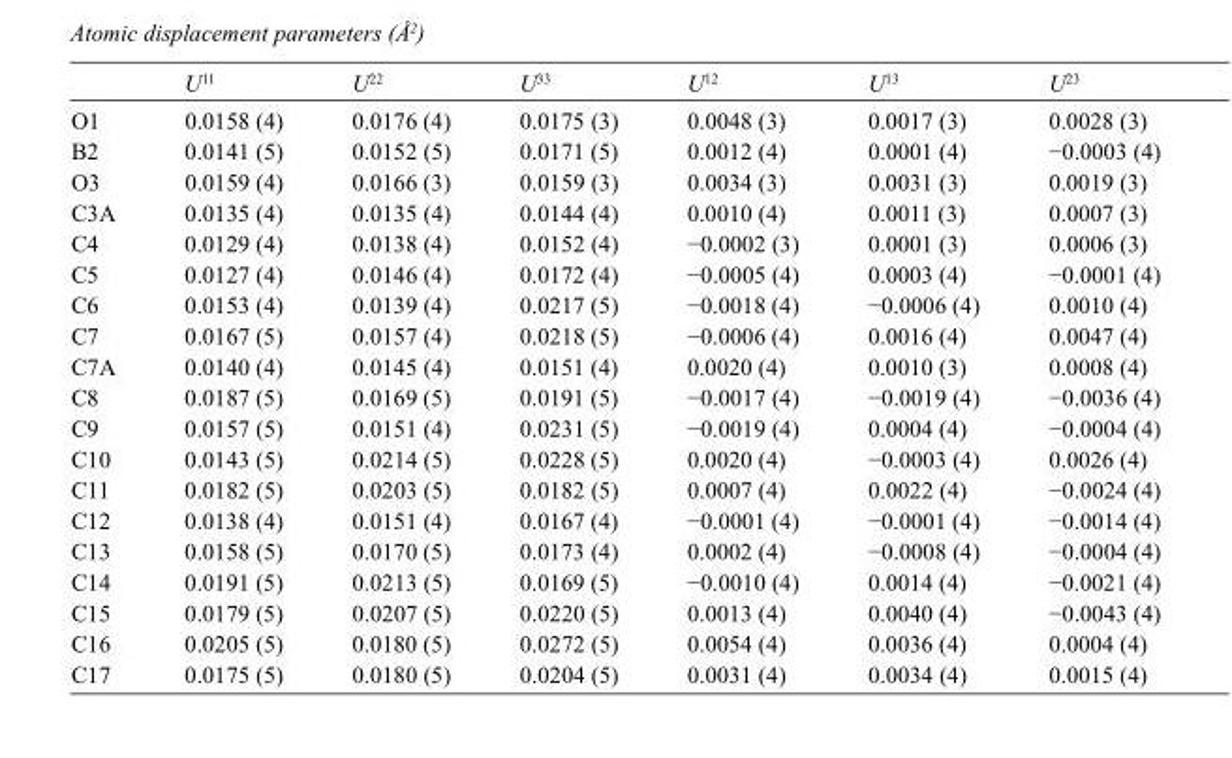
<table><thead><tr><td></td><td>U<sup>11</sup></td><td>U<sup>22</sup></td><td>U<sup>33</sup></td><td>U<sup>12</sup></td><td>U<sup>13</sup></td><td>U<sup>23</sup></td></tr></thead><tbody><tr><td>O1</td><td>0.0158 (4)</td><td>0.0176 (4)</td><td>0.0175 (3)</td><td>0.0048 (3)</td><td>0.0017 (3)</td><td>0.0028 (3)</td></tr><tr><td>B2</td><td>0.0141 (5)</td><td>0.0152 (5)</td><td>0.0171 (5)</td><td>0.0012 (4)</td><td>0.0001 (4)</td><td>−0.0003 (4)</td></tr><tr><td>O3</td><td>0.0159 (4)</td><td>0.0166 (3)</td><td>0.0159 (3)</td><td>0.0034 (3)</td><td>0.0031 (3)</td><td>0.0019 (3)</td></tr><tr><td>C3A</td><td>0.0135 (4)</td><td>0.0135 (4)</td><td>0.0144 (4)</td><td>0.0010 (4)</td><td>0.0011 (3)</td><td>0.0007 (3)</td></tr><tr><td>C4</td><td>0.0129 (4)</td><td>0.0138 (4)</td><td>0.0152 (4)</td><td>−0.0002 (3)</td><td>0.0001 (3)</td><td>0.0006 (3)</td></tr><tr><td>C5</td><td>0.0127 (4)</td><td>0.0146 (4)</td><td>0.0172 (4)</td><td>−0.0005 (4)</td><td>0.0003 (4)</td><td>−0.0001 (4)</td></tr><tr><td>C6</td><td>0.0153 (4)</td><td>0.0139 (4)</td><td>0.0217 (5)</td><td>−0.0018 (4)</td><td>−0.0006 (4)</td><td>0.0010 (4)</td></tr><tr><td>C7</td><td>0.0167 (5)</td><td>0.0157 (4)</td><td>0.0218 (5)</td><td>−0.0006 (4)</td><td>0.0016 (4)</td><td>0.0047 (4)</td></tr><tr><td>C7A</td><td>0.0140 (4)</td><td>0.0145 (4)</td><td>0.0151 (4)</td><td>0.0020 (4)</td><td>0.0010 (3)</td><td>0.0008 (4)</td></tr><tr><td>C8</td><td>0.0187 (5)</td><td>0.0169 (5)</td><td>0.0191 (5)</td><td>−0.0017 (4)</td><td>−0.0019 (4)</td><td>−0.0036 (4)</td></tr><tr><td>C9</td><td>0.0157 (5)</td><td>0.0151 (4)</td><td>0.0231 (5)</td><td>−0.0019 (4)</td><td>0.0004 (4)</td><td>−0.0004 (4)</td></tr><tr><td>C10</td><td>0.0143 (5)</td><td>0.0214 (5)</td><td>0.0228 (5)</td><td>0.0020 (4)</td><td>−0.0003 (4)</td><td>0.0026 (4)</td></tr><tr><td>C11</td><td>0.0182 (5)</td><td>0.0203 (5)</td><td>0.0182 (5)</td><td>0.0007 (4)</td><td>0.0022 (4)</td><td>−0.0024 (4)</td></tr><tr><td>C12</td><td>0.0138 (4)</td><td>0.0151 (4)</td><td>0.0167 (4)</td><td>−0.0001 (4)</td><td>−0.0001 (4)</td><td>−0.0014 (4)</td></tr><tr><td>C13</td><td>0.0158 (5)</td><td>0.0170 (5)</td><td>0.0173 (4)</td><td>0.0002 (4)</td><td>−0.0008 (4)</td><td>−0.0004 (4)</td></tr><tr><td>C14</td><td>0.0191 (5)</td><td>0.0213 (5)</td><td>0.0169 (5)</td><td>−0.0010 (4)</td><td>0.0014 (4)</td><td>−0.0021 (4)</td></tr><tr><td>C15</td><td>0.0179 (5)</td><td>0.0207 (5)</td><td>0.0220 (5)</td><td>0.0013 (4)</td><td>0.0040 (4)</td><td>−0.0043 (4)</td></tr><tr><td>C16</td><td>0.0205 (5)</td><td>0.0180 (5)</td><td>0.0272 (5)</td><td>0.0054 (4)</td><td>0.0036 (4)</td><td>0.0004 (4)</td></tr><tr><td>C17</td><td>0.0175 (5)</td><td>0.0180 (5)</td><td>0.0204 (5)</td><td>0.0031 (4)</td><td>0.0034 (4)</td><td>0.0015 (4)</td></tr></tbody></table>